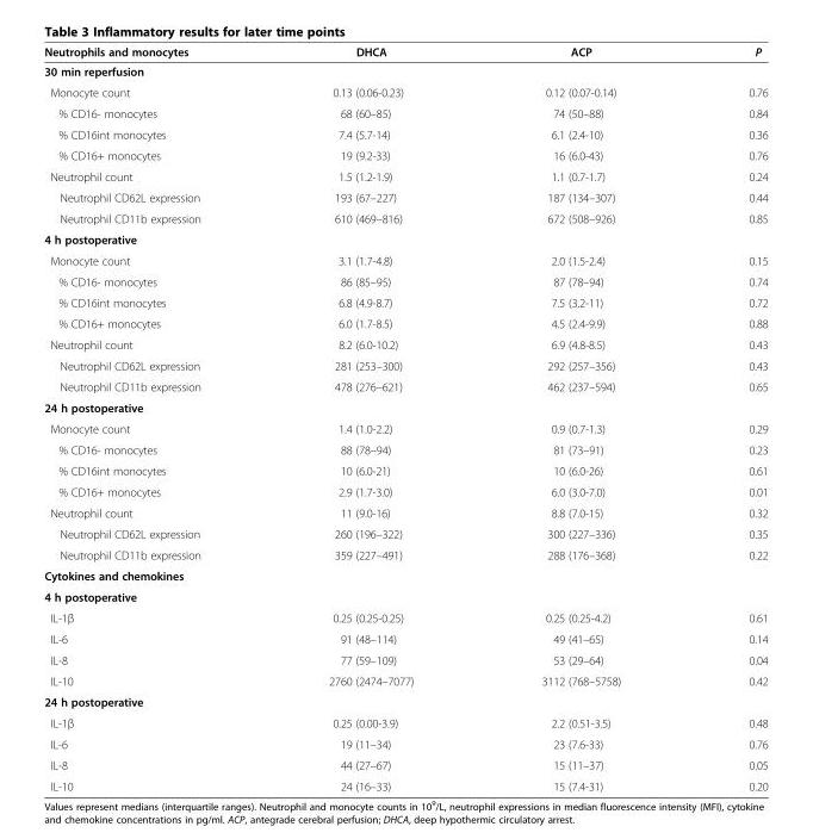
<table><thead><tr><td>Neutrophils and monocytes</td><td>DHCA</td><td>ACP</td><td>P</td></tr></thead><tbody><tr><td colspan="4">30 min reperfusion</td></tr><tr><td>Monocyte count</td><td>0.13 (0.06-0.23)</td><td>0.12 (0.07-0.14)</td><td>0.76</td></tr><tr><td>% CD16- monocytes</td><td>68 (60–85)</td><td>74 (50–88)</td><td>0.84</td></tr><tr><td>% CD16int monocytes</td><td>7.4 (5.7-14)</td><td>6.1 (2.4-10)</td><td>0.36</td></tr><tr><td>% CD16+ monocytes</td><td>19 (9.2-33)</td><td>16 (6.0-43)</td><td>0.76</td></tr><tr><td>Neutrophil count</td><td>1.5 (1.2-1.9)</td><td>1.1 (0.7-1.7)</td><td>0.24</td></tr><tr><td>Neutrophil CD62L expression</td><td>193 (67–227)</td><td>187 (134–307)</td><td>0.44</td></tr><tr><td>Neutrophil CD11b expression</td><td>610 (469–816)</td><td>672 (508–926)</td><td>0.85</td></tr><tr><td colspan="4">4 h postoperative</td></tr><tr><td>Monocyte count</td><td>3.1 (1.7-4.8)</td><td>2.0 (1.5-2.4)</td><td>0.15</td></tr><tr><td>% CD16- monocytes</td><td>86 (85–95)</td><td>87 (78–94)</td><td>0.74</td></tr><tr><td>% CD16int monocytes</td><td>6.8 (4.9-8.7)</td><td>7.5 (3.2-11)</td><td>0.72</td></tr><tr><td>% CD16+ monocytes</td><td>6.0 (1.7-8.5)</td><td>4.5 (2.4-9.9)</td><td>0.88</td></tr><tr><td>Neutrophil count</td><td>8.2 (6.0-10.2)</td><td>6.9 (4.8-8.5)</td><td>0.43</td></tr><tr><td>Neutrophil CD62L expression</td><td>281 (253–300)</td><td>292 (257–356)</td><td>0.43</td></tr><tr><td>Neutrophil CD11b expression</td><td>478 (276–621)</td><td>462 (237–594)</td><td>0.65</td></tr><tr><td colspan="4">24 h postoperative</td></tr><tr><td>Monocyte count</td><td>1.4 (1.0-2.2)</td><td>0.9 (0.7-1.3)</td><td>0.29</td></tr><tr><td>% CD16- monocytes</td><td>88 (78–94)</td><td>81 (73–91)</td><td>0.23</td></tr><tr><td>% CD16int monocytes</td><td>10 (6.0-21)</td><td>10 (6.0-26)</td><td>0.61</td></tr><tr><td>% CD16+ monocytes</td><td>2.9 (1.7-3.0)</td><td>6.0 (3.0-7.0)</td><td>0.01</td></tr><tr><td>Neutrophil count</td><td>11 (9.0-16)</td><td>8.8 (7.0-15)</td><td>0.32</td></tr><tr><td>Neutrophil CD62L expression</td><td>260 (196–322)</td><td>300 (227–336)</td><td>0.35</td></tr><tr><td>Neutrophil CD11b expression</td><td>359 (227–491)</td><td>288 (176–368)</td><td>0.22</td></tr><tr><td colspan="4">Cytokines and chemokines</td></tr><tr><td colspan="4">4 h postoperative</td></tr><tr><td>IL-1β</td><td>0.25 (0.25-0.25)</td><td>0.25 (0.25-4.2)</td><td>0.61</td></tr><tr><td>IL-6</td><td>91 (48–114)</td><td>49 (41–65)</td><td>0.14</td></tr><tr><td>IL-8</td><td>77 (59–109)</td><td>53 (29–64)</td><td>0.04</td></tr><tr><td>IL-10</td><td>2760 (2474–7077)</td><td>3112 (768–5758)</td><td>0.42</td></tr><tr><td colspan="4">24 h postoperative</td></tr><tr><td>IL-1β</td><td>0.25 (0.00-3.9)</td><td>2.2 (0.51-3.5)</td><td>0.48</td></tr><tr><td>IL-6</td><td>19 (11–34)</td><td>23 (7.6-33)</td><td>0.76</td></tr><tr><td>IL-8</td><td>44 (27–67)</td><td>15 (11–37)</td><td>0.05</td></tr><tr><td>IL-10</td><td>24 (16–33)</td><td>15 (7.4-31)</td><td>0.20</td></tr></tbody></table>